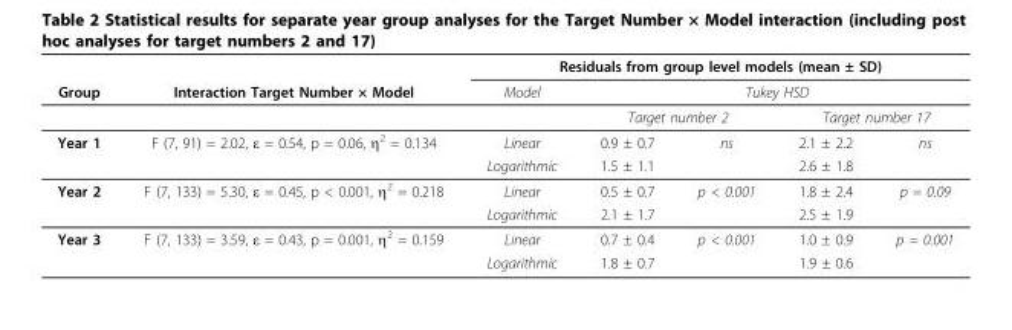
<table><thead><tr><td rowspan="4">Group Year 1</td><td rowspan="4">Interaction Target Number × Model F (7, 91) = 2.02, ε = 0.54, p = 0.06, η2 = 0.134</td><td colspan="5">Residuals from group level models (mean ± SD)</td></tr><tr><td rowspan="3">Model Linear</td><td colspan="4">Tukey HSD</td></tr><tr><td colspan="2">Target number 2</td><td colspan="2">Target number 17</td></tr><tr><td>0.9 ± 0.7</td><td>ns</td><td>2.1 ± 2.2</td><td>ns</td></tr></thead><tbody><tr><td></td><td></td><td>Logarithmic</td><td>1.5 ± 1.1</td><td></td><td>2.6 ± 1.8</td><td></td></tr><tr><td rowspan="2">Year 2</td><td>F (7, 133) = 5.30, ε = 0.45, p &lt; 0.001, η<sup>2</sup> = 0.218</td><td>Linear</td><td>0.5 ± 0.7</td><td>p &lt; 0.001</td><td>1.8 ± 2.4</td><td>p = 0.09</td></tr><tr><td></td><td>Logarithmic</td><td>2.1 ± 1.7</td><td></td><td>2.5 ± 1.9</td><td></td></tr><tr><td rowspan="2">Year 3</td><td>F (7, 133) = 3.59, ε = 0.43, p = 0.001, η<sup>2</sup> = 0.159</td><td>Linear</td><td>0.7 ± 0.4</td><td>p &lt; 0.001</td><td>1.0 ± 0.9</td><td>p = 0.001</td></tr><tr><td></td><td>Logarithmic</td><td>1.8 ± 0.7</td><td></td><td>1.9 ± 0.6</td><td></td></tr></tbody></table>